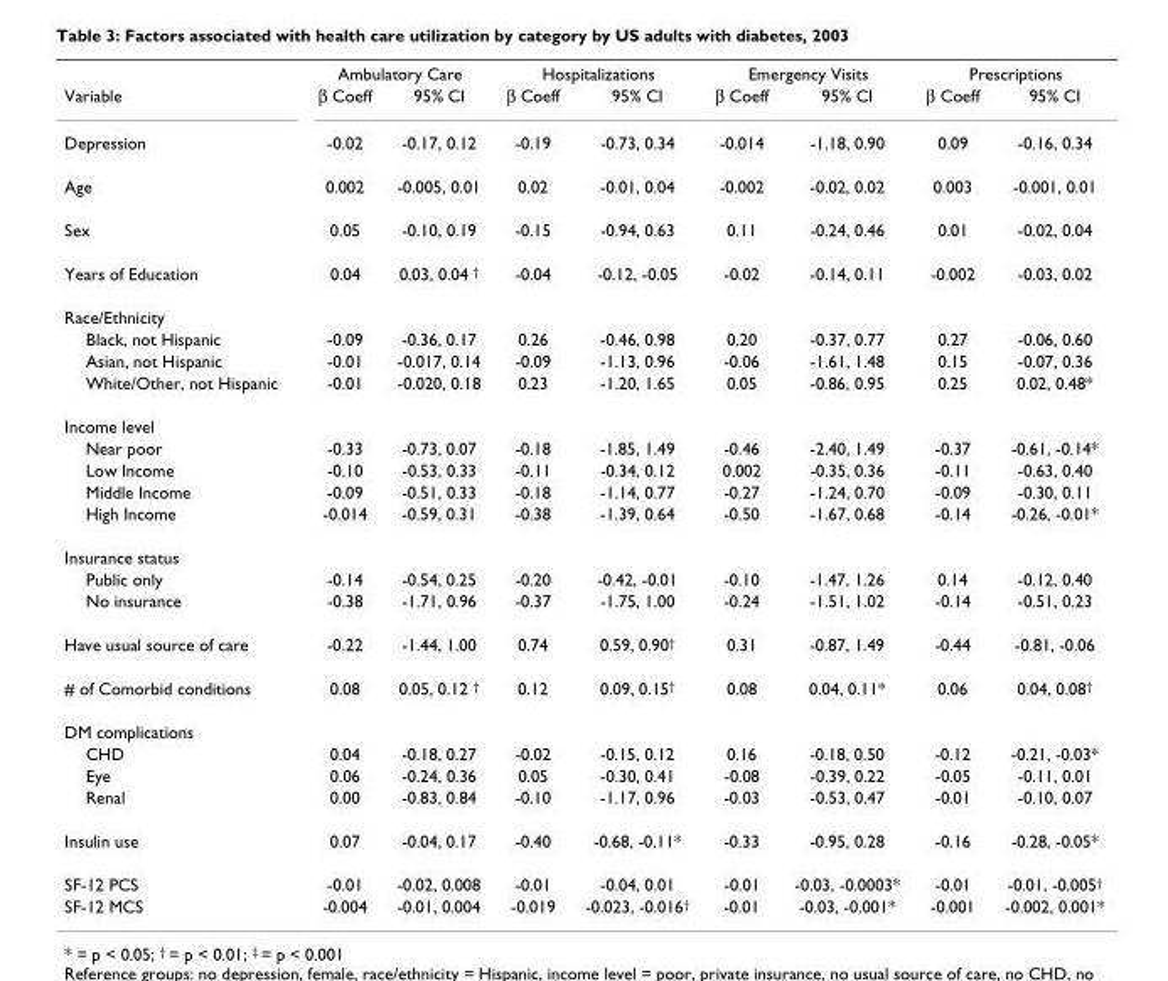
<table><thead><tr><td rowspan="2">Variable</td><td colspan="2">Ambulatory Care</td><td colspan="2">Hospitalizations</td><td colspan="2">Emergency Visits</td><td colspan="2">Prescriptions</td></tr><tr><td>β Coeff</td><td>95% CI</td><td>β Coeff</td><td>95% CI</td><td>β Coeff</td><td>95% CI</td><td>β Coeff</td><td>95% CI</td></tr></thead><tbody><tr><td>Depression</td><td>-0.02</td><td>-0.17, 0.12</td><td>-0.19</td><td>-0.73, 0.34</td><td>-0.014</td><td>-1.18, 0.90</td><td>0.09</td><td>-0.16, 0.34</td></tr><tr><td>Age</td><td>0.002</td><td>-0.005, 0.01</td><td>0.02</td><td>-0.01, 0.04</td><td>-0.002</td><td>-0.02, 0.02</td><td>0.003</td><td>-0.001, 0.01</td></tr><tr><td>Sex</td><td>0.05</td><td>-0.10, 0.19</td><td>-0.15</td><td>-0.94, 0.63</td><td>0.11</td><td>-0.24, 0.46</td><td>0.01</td><td>-0.02, 0.04</td></tr><tr><td>Years of Education</td><td>0.04</td><td>0.03, 0.04 <sup>†</sup></td><td>-0.04</td><td>-0.12, -0.05</td><td>-0.02</td><td>-0.14, 0.11</td><td>-0.002</td><td>-0.03, 0.02</td></tr><tr><td colspan="9">Race/Ethnicity</td></tr><tr><td>Black, not Hispanic</td><td>-0.09</td><td>-0.36, 0.17</td><td>0.26</td><td>-0.46, 0.98</td><td>0.20</td><td>-0.37, 0.77</td><td>0.27</td><td>-0.06, 0.60</td></tr><tr><td>Asian, not Hispanic</td><td>-0.01</td><td>-0.017, 0.14</td><td>-0.09</td><td>-1.13, 0.96</td><td>-0.06</td><td>-1.61, 1.48</td><td>0.15</td><td>-0.07, 0.36</td></tr><tr><td>White/Other, not Hispanic</td><td>-0.01</td><td>-0.020, 0.18</td><td>0.23</td><td>-1.20, 1.65</td><td>0.05</td><td>-0.86, 0.95</td><td>0.25</td><td>0.02, 0.48*</td></tr><tr><td colspan="9">Income level</td></tr><tr><td>Near poor</td><td>-0.33</td><td>-0.73, 0.07</td><td>-0.18</td><td>-1.85, 1.49</td><td>-0.46</td><td>-2.40, 1.49</td><td>-0.37</td><td>-0.61, -0.14*</td></tr><tr><td>Low Income</td><td>-0.10</td><td>-0.53, 0.33</td><td>-0.11</td><td>-0.34, 0.12</td><td>0.002</td><td>-0.35, 0.36</td><td>-0.11</td><td>-0.63, 0.40</td></tr><tr><td>Middle Income</td><td>-0.09</td><td>-0.51, 0.33</td><td>-0.18</td><td>-1.14, 0.77</td><td>-0.27</td><td>-1.24, 0.70</td><td>-0.09</td><td>-0.30, 0.11</td></tr><tr><td>High Income</td><td>-0.014</td><td>-0.59, 0.31</td><td>-0.38</td><td>-1.39, 0.64</td><td>-0.50</td><td>-1.67, 0.68</td><td>-0.14</td><td>-0.26, -0.01*</td></tr><tr><td colspan="9">Insurance status</td></tr><tr><td>Public only</td><td>-0.14</td><td>-0.54, 0.25</td><td>-0.20</td><td>-0.42, -0.01</td><td>-0.10</td><td>-1.47, 1.26</td><td>0.14</td><td>-0.12, 0.40</td></tr><tr><td>No insurance</td><td>-0.38</td><td>-1.71, 0.96</td><td>-0.37</td><td>-1.75, 1.00</td><td>-0.24</td><td>-1.51, 1.02</td><td>-0.14</td><td>-0.51, 0.23</td></tr><tr><td>Have usual source of care</td><td>-0.22</td><td>-1.44, 1.00</td><td>0.74</td><td>0.59, 0.90<sup>†</sup></td><td>0.31</td><td>-0.87, 1.49</td><td>-0.44</td><td>-0.81, -0.06</td></tr><tr><td># of Comorbid conditions</td><td>0.08</td><td>0.05, 0.12 <sup>†</sup></td><td>0.12</td><td>0.09, 0.15<sup>†</sup></td><td>0.08</td><td>0.04, 0.11*</td><td>0.06</td><td>0.04, 0.08<sup>†</sup></td></tr><tr><td colspan="9">DM complications</td></tr><tr><td>CHD</td><td>0.04</td><td>-0.18, 0.27</td><td>-0.02</td><td>-0.15, 0.12</td><td>0.16</td><td>-0.18, 0.50</td><td>-0.12</td><td>-0.21, -0.03*</td></tr><tr><td>Eye</td><td>0.06</td><td>-0.24, 0.36</td><td>0.05</td><td>-0.30, 0.41</td><td>-0.08</td><td>-0.39, 0.22</td><td>-0.05</td><td>-0.11, 0.01</td></tr><tr><td>Renal</td><td>0.00</td><td>-0.83, 0.84</td><td>-0.10</td><td>-1.17, 0.96</td><td>-0.03</td><td>-0.53, 0.47</td><td>-0.01</td><td>-0.10, 0.07</td></tr><tr><td>Insulin use</td><td>0.07</td><td>-0.04, 0.17</td><td>-0.40</td><td>-0.68, -0.11*</td><td>-0.33</td><td>-0.95, 0.28</td><td>-0.16</td><td>-0.28, -0.05*</td></tr><tr><td>SF-12 PCS</td><td>-0.01</td><td>-0.02, 0.008</td><td>-0.01</td><td>-0.04, 0.01</td><td>-0.01</td><td>-0.03, -0.0003*</td><td>-0.01</td><td>-0.01, -0.005<sup>†</sup></td></tr><tr><td>SF-12 MCS</td><td>-0.004</td><td>-0.01, 0.004</td><td>-0.019</td><td>-0.023, -0.016<sup>†</sup></td><td>-0.01</td><td>-0.03, -0.001*</td><td>-0.001</td><td>-0.002, 0.001*</td></tr></tbody></table>